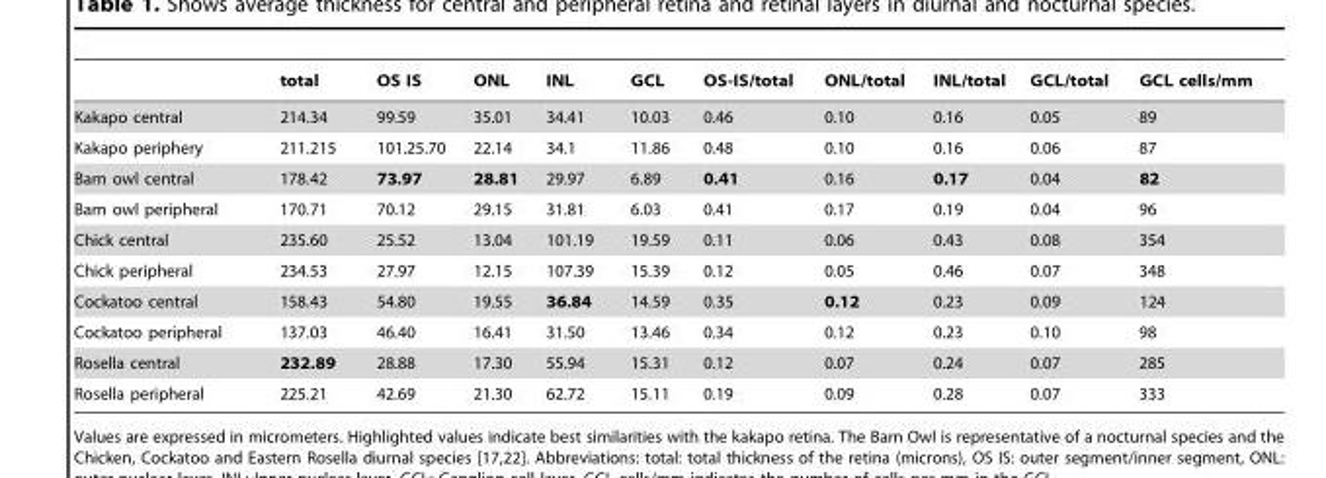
<table><thead><tr><td></td><td>total</td><td>OS IS</td><td>ONL</td><td>INL</td><td>GCL</td><td>OS-IS/total</td><td>ONL/total</td><td>INL/total</td><td>GCL/total</td><td>GCL cells/mm</td></tr></thead><tbody><tr><td>Kakapo central</td><td>214.34</td><td>99.59</td><td>35.01</td><td>34.41</td><td>10.03</td><td>0.46</td><td>0.10</td><td>0.16</td><td>0.05</td><td>89</td></tr><tr><td>Kakapo periphery</td><td>211.215</td><td>101.25.70</td><td>22.14</td><td>34.1</td><td>11.86</td><td>0.48</td><td>0.10</td><td>0.16</td><td>0.06</td><td>87</td></tr><tr><td>Barn owl central</td><td>178.42</td><td>73.97</td><td>28.81</td><td>29.97</td><td>6.89</td><td>0.41</td><td>0.16</td><td>0.17</td><td>0.04</td><td>82</td></tr><tr><td>Barn owl peripheral</td><td>170.71</td><td>70.12</td><td>29.15</td><td>31.81</td><td>6.03</td><td>0.41</td><td>0.17</td><td>0.19</td><td>0.04</td><td>96</td></tr><tr><td>Chick central</td><td>235.60</td><td>25.52</td><td>13.04</td><td>101.19</td><td>19.59</td><td>0.11</td><td>0.06</td><td>0.43</td><td>0.08</td><td>354</td></tr><tr><td>Chick peripheral</td><td>234.53</td><td>27.97</td><td>12.15</td><td>107.39</td><td>15.39</td><td>0.12</td><td>0.05</td><td>0.46</td><td>0.07</td><td>348</td></tr><tr><td>Cockatoo central</td><td>158.43</td><td>54.80</td><td>19.55</td><td>36.84</td><td>14.59</td><td>0.35</td><td>0.12</td><td>0.23</td><td>0.09</td><td>124</td></tr><tr><td>Cockatoo peripheral</td><td>137.03</td><td>46.40</td><td>16.41</td><td>31.50</td><td>13.46</td><td>0.34</td><td>0.12</td><td>0.23</td><td>0.10</td><td>98</td></tr><tr><td>Rosella central</td><td>232.89</td><td>28.88</td><td>17.30</td><td>55.94</td><td>15.31</td><td>0.12</td><td>0.07</td><td>0.24</td><td>0.07</td><td>285</td></tr><tr><td>Rosella peripheral</td><td>225.21</td><td>42.69</td><td>21.30</td><td>62.72</td><td>15.11</td><td>0.19</td><td>0.09</td><td>0.28</td><td>0.07</td><td>333</td></tr></tbody></table>